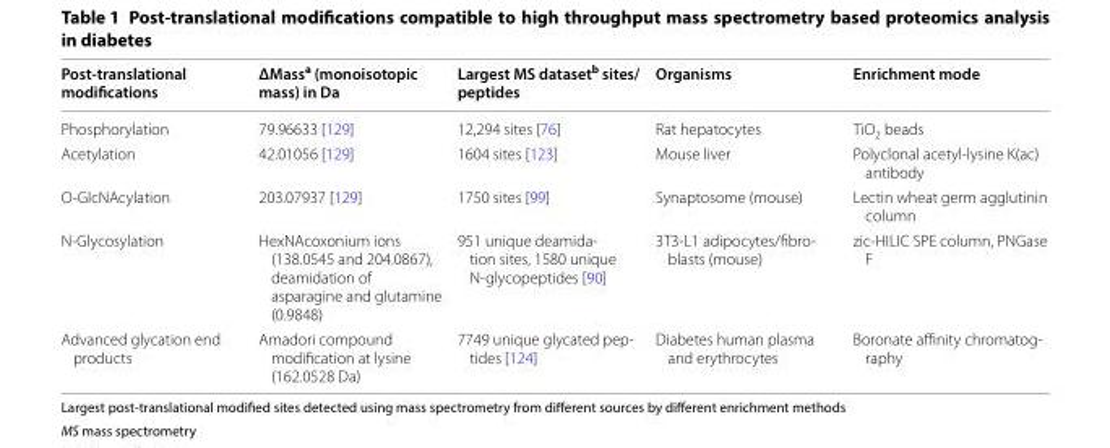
<table><thead><tr><td>Post-translational modifications</td><td>ΔMass<sup>a</sup> (monoisotopic mass) in Da</td><td>Largest MS dataset<sup>b</sup> sites/ peptides</td><td>Organisms</td><td>Enrichment mode</td></tr></thead><tbody><tr><td>Phosphorylation</td><td>79.96633 [129]</td><td>12,294 sites [76]</td><td>Rat hepatocytes</td><td>TiO<sub>2</sub> beads</td></tr><tr><td>Acetylation</td><td>42.01056 [129]</td><td>1604 sites [123]</td><td>Mouse liver</td><td>Polyclonal acetyl-lysine K(ac) antibody</td></tr><tr><td>O-GlcNAcylation</td><td>203.07937 [129]</td><td>1750 sites [99]</td><td>Synaptosome (mouse)</td><td>Lectin wheat germ agglutinin column</td></tr><tr><td>N-Glycosylation</td><td>HexNAcoxonium ions (138.0545 and 204.0867), deamidation of asparagine and glutamine (0.9848)</td><td>951 unique deamida- tion sites, 1580 unique N-glycopeptides [90]</td><td>3T3-L1 adipocytes/fibro- blasts (mouse)</td><td>zic-HILIC SPE column, PNGase F</td></tr><tr><td>Advanced glycation end products</td><td>Amadori compound modification at lysine (162.0528 Da)</td><td>7749 unique glycated pep- tides [124]</td><td>Diabetes human plasma and erythrocytes</td><td>Boronate affinity chromatog- raphy</td></tr></tbody></table>